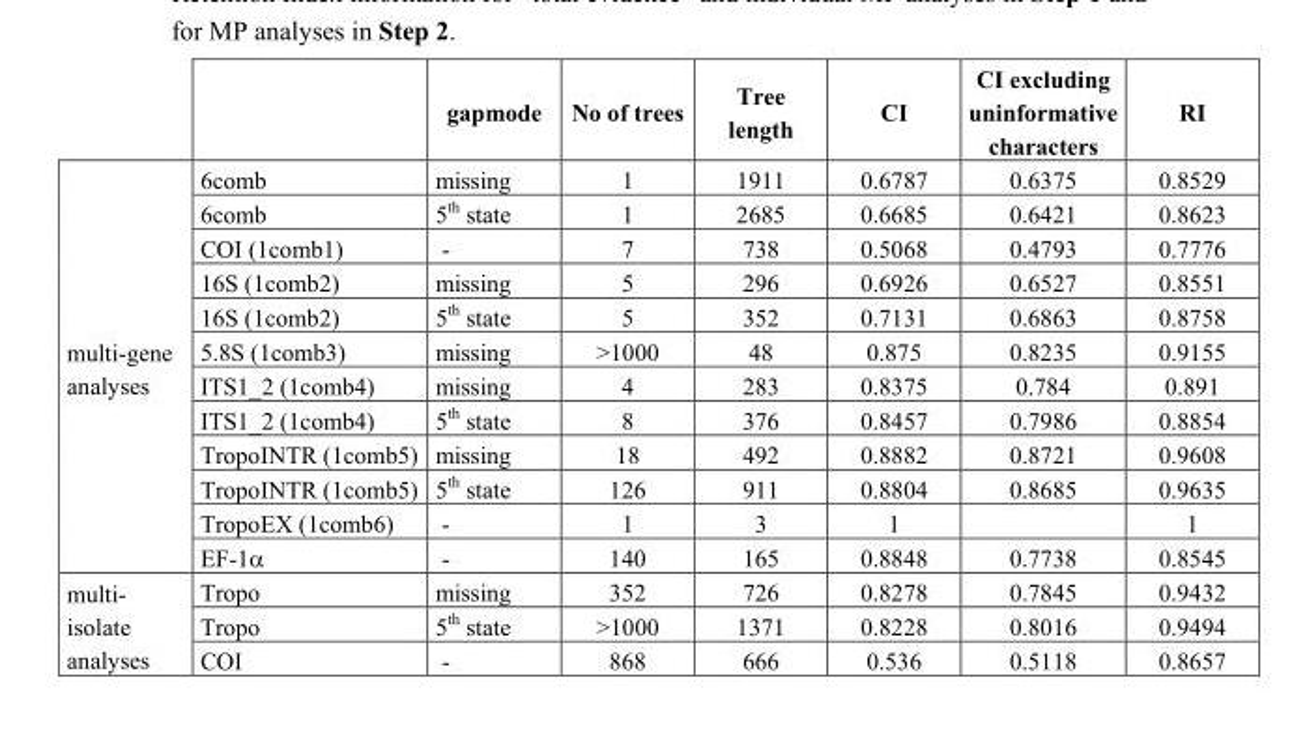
<table><thead><tr><td></td><td></td><td>gapmode</td><td>No of trees</td><td>Tree length</td><td>CI</td><td>CI excluding uninformative characters</td><td>RI</td></tr></thead><tbody><tr><td rowspan="12">multi-gene analyses</td><td>6comb</td><td>missing</td><td>1</td><td>1911</td><td>0.6787</td><td>0.6375</td><td>0.8529</td></tr><tr><td>6comb</td><td>5<sup>th</sup> state</td><td>1</td><td>2685</td><td>0.6685</td><td>0.6421</td><td>0.8623</td></tr><tr><td>COI (1comb1)</td><td>-</td><td>7</td><td>738</td><td>0.5068</td><td>0.4793</td><td>0.7776</td></tr><tr><td>16S (1comb2)</td><td>missing</td><td>5</td><td>296</td><td>0.6926</td><td>0.6527</td><td>0.8551</td></tr><tr><td>16S (1comb2)</td><td>5<sup>th</sup> state</td><td>5</td><td>352</td><td>0.7131</td><td>0.6863</td><td>0.8758</td></tr><tr><td>5.8S (1comb3)</td><td>missing</td><td>&gt;1000</td><td>48</td><td>0.875</td><td>0.8235</td><td>0.9155</td></tr><tr><td>ITS1_2 (1comb4)</td><td>missing</td><td>4</td><td>283</td><td>0.8375</td><td>0.784</td><td>0.891</td></tr><tr><td>ITS1_2 (1comb4)</td><td>5<sup>th</sup> state</td><td>8</td><td>376</td><td>0.8457</td><td>0.7986</td><td>0.8854</td></tr><tr><td>TropoINTR (1comb5)</td><td>missing</td><td>18</td><td>492</td><td>0.8882</td><td>0.8721</td><td>0.9608</td></tr><tr><td>TropoINTR (1comb5)</td><td>5<sup>th</sup> state</td><td>126</td><td>911</td><td>0.8804</td><td>0.8685</td><td>0.9635</td></tr><tr><td>TropoEX (1comb6)</td><td>-</td><td>1</td><td>3</td><td>1</td><td></td><td>1</td></tr><tr><td>EF-1α</td><td>-</td><td>140</td><td>165</td><td>0.8848</td><td>0.7738</td><td>0.8545</td></tr><tr><td rowspan="3">multi- isolate analyses</td><td>Tropo</td><td>missing</td><td>352</td><td>726</td><td>0.8278</td><td>0.7845</td><td>0.9432</td></tr><tr><td>Tropo</td><td>5<sup>th</sup> state</td><td>&gt;1000</td><td>1371</td><td>0.8228</td><td>0.8016</td><td>0.9494</td></tr><tr><td>COI</td><td>-</td><td>868</td><td>666</td><td>0.536</td><td>0.5118</td><td>0.8657</td></tr></tbody></table>